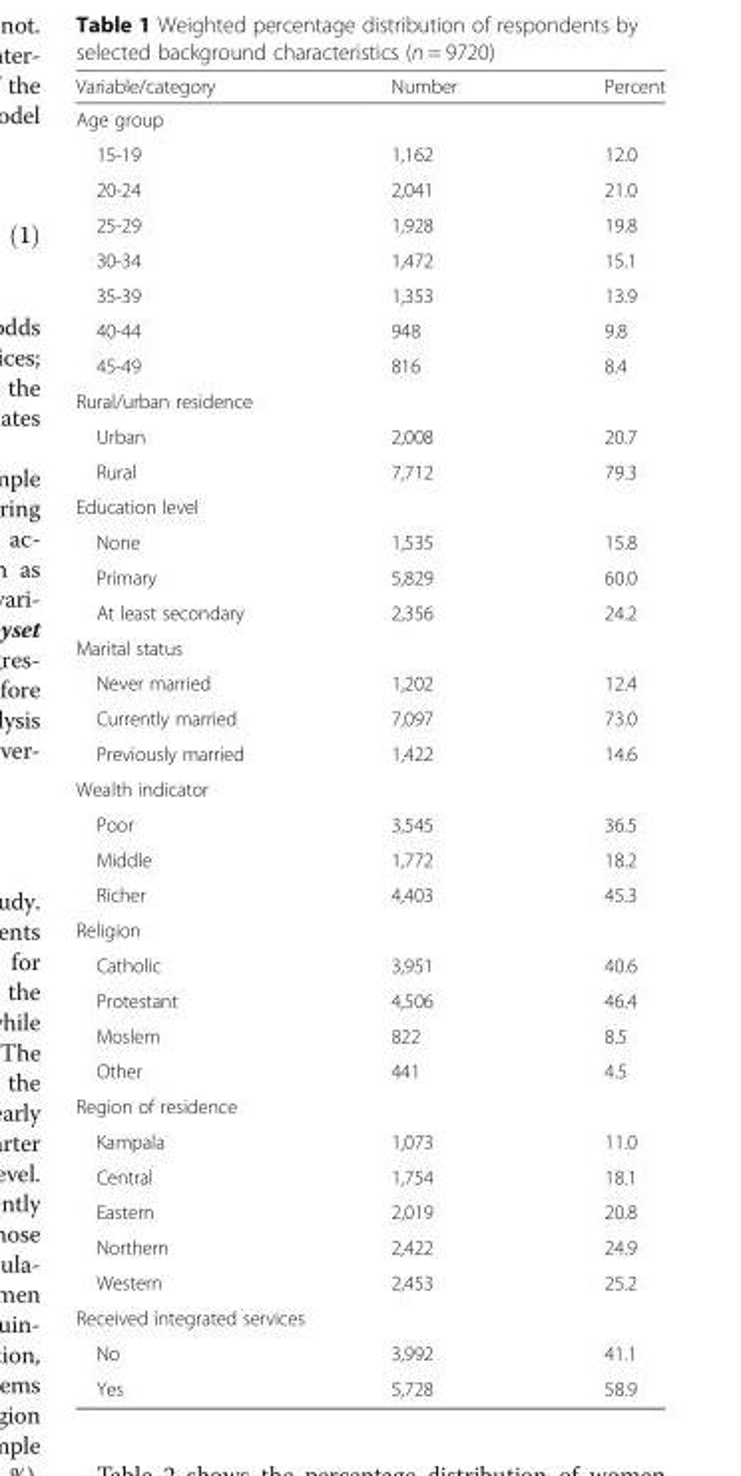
<table><thead><tr><td>Variable/category</td><td>Number</td><td>Percent</td></tr></thead><tbody><tr><td colspan="3">Age group</td></tr><tr><td>15-19</td><td>1,162</td><td>12.0</td></tr><tr><td>20-24</td><td>2,041</td><td>21.0</td></tr><tr><td>25-29</td><td>1,928</td><td>19.8</td></tr><tr><td>30-34</td><td>1,472</td><td>15.1</td></tr><tr><td>35-39</td><td>1,353</td><td>13.9</td></tr><tr><td>40-44</td><td>948</td><td>9.8</td></tr><tr><td>45-49</td><td>816</td><td>8.4</td></tr><tr><td colspan="3">Rural/urban residence</td></tr><tr><td>Urban</td><td>2,008</td><td>20.7</td></tr><tr><td>Rural</td><td>7,712</td><td>79.3</td></tr><tr><td colspan="3">Education level</td></tr><tr><td>None</td><td>1,535</td><td>15.8</td></tr><tr><td>Primary</td><td>5,829</td><td>60.0</td></tr><tr><td>At least secondary</td><td>2,356</td><td>24.2</td></tr><tr><td colspan="3">Marital status</td></tr><tr><td>Never married</td><td>1,202</td><td>12.4</td></tr><tr><td>Currently married</td><td>7,097</td><td>73.0</td></tr><tr><td>Previously married</td><td>1,422</td><td>14.6</td></tr><tr><td colspan="3">Wealth indicator</td></tr><tr><td>Poor</td><td>3,545</td><td>36.5</td></tr><tr><td>Middle</td><td>1,772</td><td>18.2</td></tr><tr><td>Richer</td><td>4,403</td><td>45.3</td></tr><tr><td colspan="3">Religion</td></tr><tr><td>Catholic</td><td>3,951</td><td>40.6</td></tr><tr><td>Protestant</td><td>4,506</td><td>46.4</td></tr><tr><td>Moslem</td><td>822</td><td>8.5</td></tr><tr><td>Other</td><td>441</td><td>4.5</td></tr><tr><td colspan="3">Region of residence</td></tr><tr><td>Kampala</td><td>1,073</td><td>11.0</td></tr><tr><td>Central</td><td>1,754</td><td>18.1</td></tr><tr><td>Eastern</td><td>2,019</td><td>20.8</td></tr><tr><td>Northern</td><td>2,422</td><td>24.9</td></tr><tr><td>Western</td><td>2,453</td><td>25.2</td></tr><tr><td colspan="3">Received integrated services</td></tr><tr><td>No</td><td>3,992</td><td>41.1</td></tr><tr><td>Yes</td><td>5,728</td><td>58.9</td></tr></tbody></table>